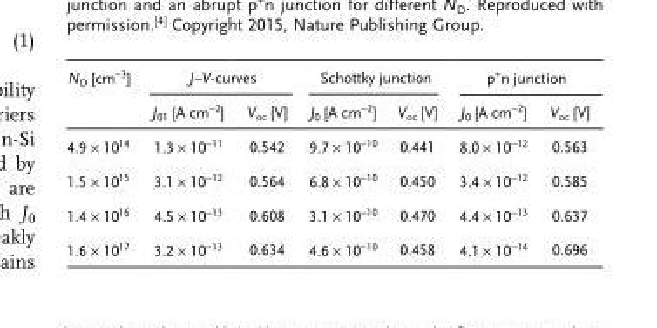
<table><thead><tr><td rowspan="2">N<sub>D</sub> [cm<sup>−3</sup>]</td><td colspan="2">J–V-curves</td><td colspan="2">Schottky junction</td><td colspan="2">p<sup>+</sup>n junction</td></tr><tr><td>J<sub>01</sub> [A cm<sup>−2</sup>]</td><td>V<sub>oc</sub> [V]</td><td>J<sub>0</sub> [A cm<sup>−2</sup>]</td><td>V<sub>oc</sub> [V]</td><td>J<sub>0</sub> [A cm<sup>−2</sup>]</td><td>V<sub>oc</sub> [V]</td></tr></thead><tbody><tr><td>4.9 × 10<sup>14</sup></td><td>1.3 × 10<sup>−11</sup></td><td>0.542</td><td>9.7 × 10<sup>−10</sup></td><td>0.441</td><td>8.0 × 10<sup>−12</sup></td><td>0.563</td></tr><tr><td>1.5 × 10<sup>15</sup></td><td>3.1 × 10<sup>−12</sup></td><td>0.564</td><td>6.8 × 10<sup>−10</sup></td><td>0.450</td><td>3.4 × 10<sup>−12</sup></td><td>0.585</td></tr><tr><td>1.4 × 10<sup>16</sup></td><td>4.5 × 10<sup>−13</sup></td><td>0.608</td><td>3.1 × 10<sup>−10</sup></td><td>0.470</td><td>4.4 × 10<sup>−13</sup></td><td>0.637</td></tr><tr><td>1.6 × 10<sup>17</sup></td><td>3.2 × 10<sup>−13</sup></td><td>0.634</td><td>4.6 × 10<sup>−10</sup></td><td>0.458</td><td>4.1 × 10<sup>−14</sup></td><td>0.696</td></tr></tbody></table>